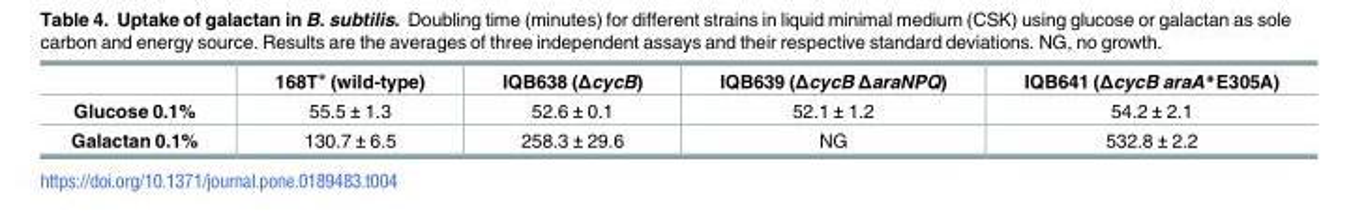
<table><thead><tr><td></td><td>168T<sup>+</sup> (wild-type)</td><td>IQB638 (ΔcycB)</td><td>IQB639 (ΔcycB ΔaraNPQ)</td><td>IQB641 (ΔcycB araA*E305A)</td></tr></thead><tbody><tr><td>Glucose 0.1%</td><td>55.5 ± 1.3</td><td>52.6 ± 0.1</td><td>52.1 ± 1.2</td><td>54.2 ± 2.1</td></tr><tr><td>Galactan 0.1%</td><td>130.7 ± 6.5</td><td>258.3 ± 29.6</td><td>NG</td><td>532.8 ± 2.2</td></tr></tbody></table>